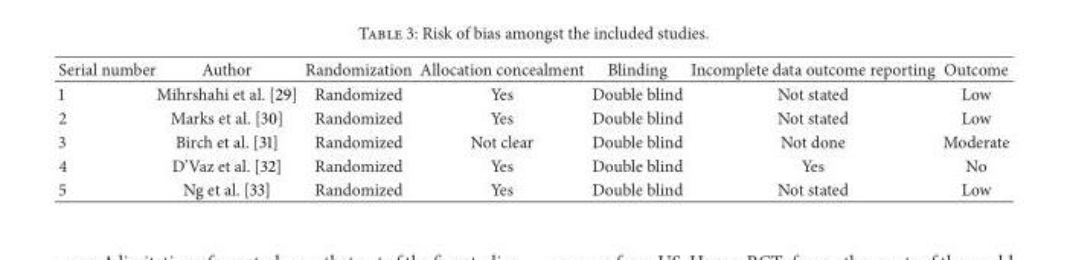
<table><thead><tr><td>Serial number</td><td>Author</td><td>Randomization</td><td>Allocation concealment</td><td>Blinding</td><td>Incomplete data outcome reporting</td><td>Outcome</td></tr></thead><tbody><tr><td>1</td><td>Mihrshahi et al. [29]</td><td>Randomized</td><td>Yes</td><td>Double blind</td><td>Not stated</td><td>Low</td></tr><tr><td>2</td><td>Marks et al. [30]</td><td>Randomized</td><td>Yes</td><td>Double blind</td><td>Not stated</td><td>Low</td></tr><tr><td>3</td><td>Birch et al. [31]</td><td>Randomized</td><td>Not clear</td><td>Double blind</td><td>Not done</td><td>Moderate</td></tr><tr><td>4</td><td>D’Vaz et al. [32]</td><td>Randomized</td><td>Yes</td><td>Double blind</td><td>Yes</td><td>No</td></tr><tr><td>5</td><td>Ng et al. [33]</td><td>Randomized</td><td>Yes</td><td>Double blind</td><td>Not stated</td><td>Low</td></tr></tbody></table>